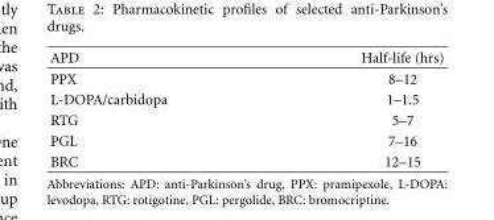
<table><thead><tr><td>APD</td><td>Half-life (hrs)</td></tr></thead><tbody><tr><td>PPX</td><td>8–12</td></tr><tr><td>L-DOPA/carbidopa</td><td>1–1.5</td></tr><tr><td>RTG</td><td>5–7</td></tr><tr><td>PGL</td><td>7–16</td></tr><tr><td>BRC</td><td>12–15</td></tr></tbody></table>